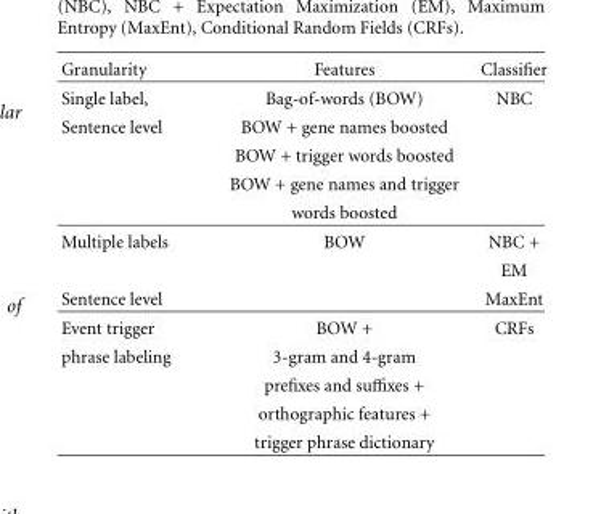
<table><thead><tr><td>Granularity</td><td>Features</td><td>Classifier</td></tr></thead><tbody><tr><td>Single label,</td><td>Bag-of-words (BOW)</td><td>NBC</td></tr><tr><td rowspan="4">Sentence level</td><td>BOW + gene names boosted</td><td></td></tr><tr><td>BOW + trigger words boosted</td><td></td></tr><tr><td>BOW + gene names and trigger</td><td></td></tr><tr><td>words boosted</td><td></td></tr><tr><td rowspan="2">Multiple labels</td><td>BOW</td><td>NBC +</td></tr><tr><td></td><td>EM</td></tr><tr><td>Sentence level</td><td></td><td>MaxEnt</td></tr><tr><td>Event trigger</td><td>BOW +</td><td>CRFs</td></tr><tr><td rowspan="4">phrase labeling</td><td>3-gram and 4-gram</td><td></td></tr><tr><td>prefixes and suffixes +</td><td></td></tr><tr><td>orthographic features +</td><td></td></tr><tr><td>trigger phrase dictionary</td><td></td></tr></tbody></table>